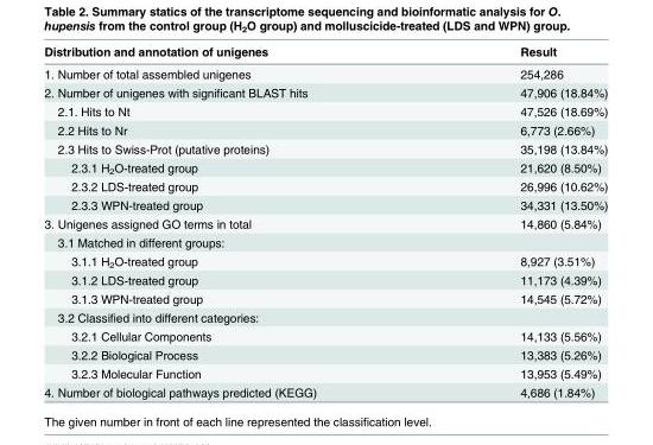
<table><thead><tr><td>Distribution and annotation of unigenes</td><td>Result</td></tr></thead><tbody><tr><td>1. Number of total assembled unigenes</td><td>254,286</td></tr><tr><td>2. Number of unigenes with significant BLAST hits</td><td>47,906 (18.84%)</td></tr><tr><td>2.1. Hits to Nt</td><td>47,526 (18.69%)</td></tr><tr><td>2.2 Hits to Nr</td><td>6,773 (2.66%)</td></tr><tr><td>2.3 Hits to Swiss-Prot (putative proteins)</td><td>35,198 (13.84%)</td></tr><tr><td>2.3.1 H<sub>2</sub>O-treated group</td><td>21,620 (8.50%)</td></tr><tr><td>2.3.2 LDS-treated group</td><td>26,996 (10.62%)</td></tr><tr><td>2.3.3 WPN-treated group</td><td>34,331 (13.50%)</td></tr><tr><td>3. Unigenes assigned GO terms in total</td><td>14,860 (5.84%)</td></tr><tr><td colspan="2">3.1 Matched in different groups:</td></tr><tr><td>3.1.1 H<sub>2</sub>O-treated group</td><td>8,927 (3.51%)</td></tr><tr><td>3.1.2 LDS-treated group</td><td>11,173 (4.39%)</td></tr><tr><td>3.1.3 WPN-treated group</td><td>14,545 (5.72%)</td></tr><tr><td colspan="2">3.2 Classified into different categories:</td></tr><tr><td>3.2.1 Cellular Components</td><td>14,133 (5.56%)</td></tr><tr><td>3.2.2 Biological Process</td><td>13,383 (5.26%)</td></tr><tr><td>3.2.3 Molecular Function</td><td>13,953 (5.49%)</td></tr><tr><td>4. Number of biological pathways predicted (KEGG)</td><td>4,686 (1.84%)</td></tr></tbody></table>